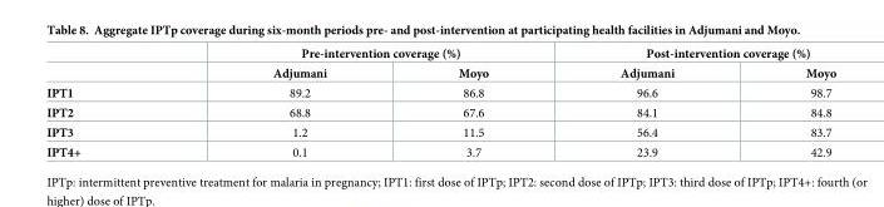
<table><thead><tr><td rowspan="2"></td><td colspan="2">Pre-intervention coverage (%)</td><td colspan="2">Post-intervention coverage (%)</td></tr><tr><td>Adjumani</td><td>Moyo</td><td>Adjumani</td><td>Moyo</td></tr></thead><tbody><tr><td>IPT1</td><td>89.2</td><td>86.8</td><td>96.6</td><td>98.7</td></tr><tr><td>IPT2</td><td>68.8</td><td>67.6</td><td>84.1</td><td>84.8</td></tr><tr><td>IPT3</td><td>1.2</td><td>11.5</td><td>56.4</td><td>83.7</td></tr><tr><td>IPT4+</td><td>0.1</td><td>3.7</td><td>23.9</td><td>42.9</td></tr></tbody></table>